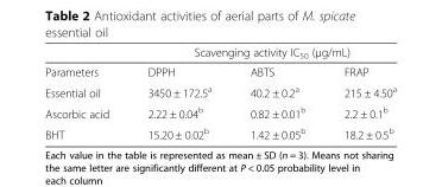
<table><thead><tr><td rowspan="2">Parameters</td><td colspan="3">Scavenging activity IC<sub>50</sub> (μg/mL)</td></tr><tr><td>DPPH</td><td>ABTS</td><td>FRAP</td></tr></thead><tbody><tr><td>Essential oil</td><td>3450 ± 172.5<sup>a</sup></td><td>40.2 ± 0.2<sup>a</sup></td><td>215 ± 4.50<sup>a</sup></td></tr><tr><td>Ascorbic acid</td><td>2.22 ± 0.04<sup>b</sup></td><td>0.82 ± 0.01<sup>b</sup></td><td>2.2 ± 0.1<sup>b</sup></td></tr><tr><td>BHT</td><td>15.20 ± 0.02<sup>b</sup></td><td>1.42 ± 0.05<sup>b</sup></td><td>18.2 ± 0.5<sup>b</sup></td></tr></tbody></table>